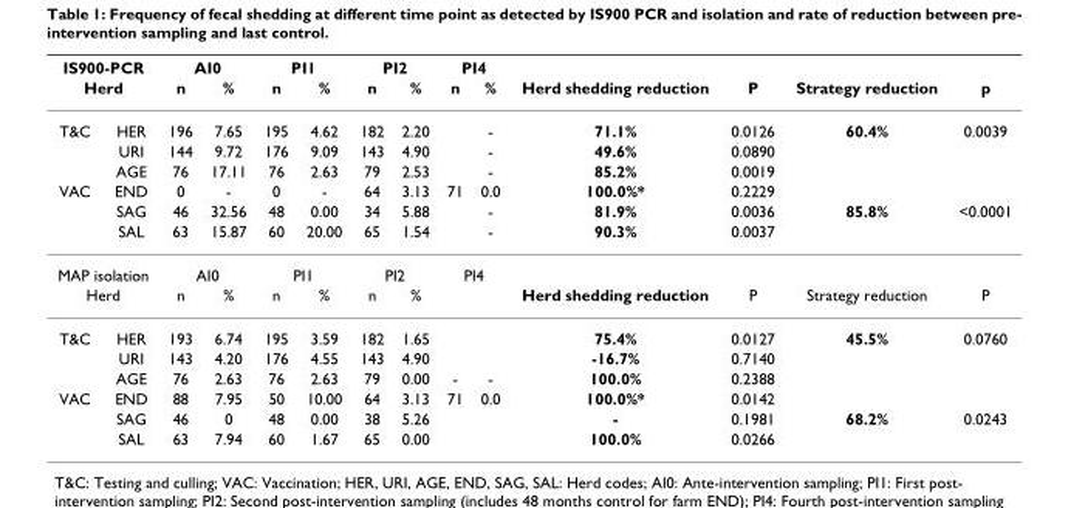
<table><thead><tr><td rowspan="2" colspan="2">IS900-PCR Herd</td><td colspan="2">AI0</td><td colspan="2">PI1</td><td colspan="2">PI2</td><td colspan="2">PI4</td><td rowspan="3">Herd shedding reduction 71.1%</td><td rowspan="3">P 0.0126</td><td rowspan="3">Strategy reduction 60.4%</td><td rowspan="3">p 0.0039</td></tr><tr><td rowspan="2">n 196</td><td rowspan="2">% 7.65</td><td rowspan="2">n 195</td><td rowspan="2">% 4.62</td><td rowspan="2">n 182</td><td rowspan="2">% 2.20</td><td rowspan="2">n</td><td rowspan="2">% -</td></tr><tr><td>T&amp;C</td><td>HER</td></tr></thead><tbody><tr><td></td><td>URI</td><td>144</td><td>9.72</td><td>176</td><td>9.09</td><td>143</td><td>4.90</td><td></td><td>-</td><td>49.6%</td><td>0.0890</td><td></td><td></td></tr><tr><td></td><td>AGE</td><td>76</td><td>17.11</td><td>76</td><td>2.63</td><td>79</td><td>2.53</td><td></td><td>-</td><td>85.2%</td><td>0.0019</td><td></td><td></td></tr><tr><td rowspan="3">VAC</td><td>END</td><td>0</td><td>-</td><td>0</td><td>-</td><td>64</td><td>3.13</td><td>71</td><td>0.0</td><td>100.0%*</td><td>0.2229</td><td></td><td></td></tr><tr><td>SAG</td><td>46</td><td>32.56</td><td>48</td><td>0.00</td><td>34</td><td>5.88</td><td></td><td>-</td><td>81.9%</td><td>0.0036</td><td>85.8%</td><td>&lt;0.0001</td></tr><tr><td>SAL</td><td>63</td><td>15.87</td><td>60</td><td>20.00</td><td>65</td><td>1.54</td><td></td><td>-</td><td>90.3%</td><td>0.0037</td><td></td><td></td></tr><tr><td colspan="2">MAP isolation</td><td colspan="2">AI0</td><td colspan="2">PI1</td><td colspan="2">PI2</td><td colspan="2">PI4</td><td></td><td></td><td></td><td></td></tr><tr><td colspan="2">Herd</td><td>n</td><td>%</td><td>n</td><td>%</td><td>n</td><td>%</td><td></td><td></td><td>Herd shedding reduction</td><td>P</td><td>Strategy reduction</td><td>P</td></tr><tr><td rowspan="3">T&amp;C</td><td>HER</td><td>193</td><td>6.74</td><td>195</td><td>3.59</td><td>182</td><td>1.65</td><td></td><td></td><td>75.4%</td><td>0.0127</td><td>45.5%</td><td>0.0760</td></tr><tr><td>URI</td><td>143</td><td>4.20</td><td>176</td><td>4.55</td><td>143</td><td>4.90</td><td></td><td></td><td>-16.7%</td><td>0.7140</td><td></td><td></td></tr><tr><td>AGE</td><td>76</td><td>2.63</td><td>76</td><td>2.63</td><td>79</td><td>0.00</td><td>-</td><td>-</td><td>100.0%</td><td>0.2388</td><td></td><td></td></tr><tr><td rowspan="3">VAC</td><td>END</td><td>88</td><td>7.95</td><td>50</td><td>10.00</td><td>64</td><td>3.13</td><td>71</td><td>0.0</td><td>100.0%*</td><td>0.0142</td><td></td><td></td></tr><tr><td>SAG</td><td>46</td><td>0</td><td>48</td><td>0.00</td><td>38</td><td>5.26</td><td></td><td></td><td>-</td><td>0.1981</td><td>68.2%</td><td>0.0243</td></tr><tr><td>SAL</td><td>63</td><td>7.94</td><td>60</td><td>1.67</td><td>65</td><td>0.00</td><td></td><td></td><td>100.0%</td><td>0.0266</td><td></td><td></td></tr></tbody></table>